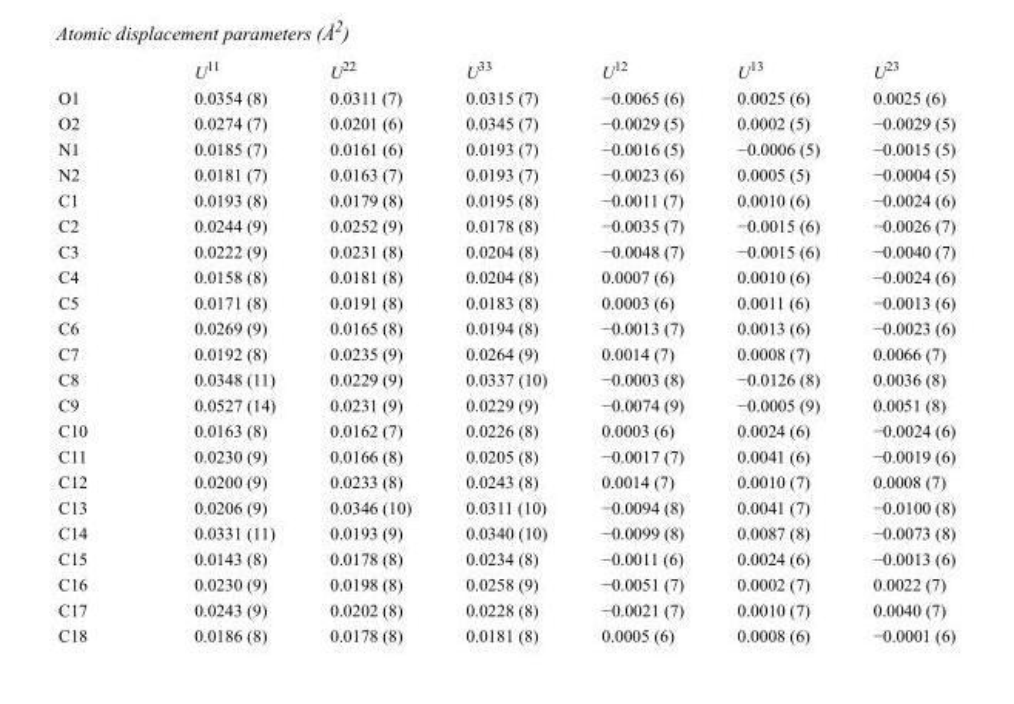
<table><thead><tr><td></td><td>U<sup>11</sup></td><td>U<sup>22</sup></td><td>U<sup>33</sup></td><td>U<sup>12</sup></td><td>U<sup>13</sup></td><td>U<sup>23</sup></td></tr></thead><tbody><tr><td>O1</td><td>0.0354 (8)</td><td>0.0311 (7)</td><td>0.0315 (7)</td><td>−0.0065 (6)</td><td>0.0025 (6)</td><td>0.0025 (6)</td></tr><tr><td>O2</td><td>0.0274 (7)</td><td>0.0201 (6)</td><td>0.0345 (7)</td><td>−0.0029 (5)</td><td>0.0002 (5)</td><td>−0.0029 (5)</td></tr><tr><td>N1</td><td>0.0185 (7)</td><td>0.0161 (6)</td><td>0.0193 (7)</td><td>−0.0016 (5)</td><td>−0.0006 (5)</td><td>−0.0015 (5)</td></tr><tr><td>N2</td><td>0.0181 (7)</td><td>0.0163 (7)</td><td>0.0193 (7)</td><td>−0.0023 (6)</td><td>0.0005 (5)</td><td>−0.0004 (5)</td></tr><tr><td>C1</td><td>0.0193 (8)</td><td>0.0179 (8)</td><td>0.0195 (8)</td><td>−0.0011 (7)</td><td>0.0010 (6)</td><td>−0.0024 (6)</td></tr><tr><td>C2</td><td>0.0244 (9)</td><td>0.0252 (9)</td><td>0.0178 (8)</td><td>−0.0035 (7)</td><td>−0.0015 (6)</td><td>−0.0026 (7)</td></tr><tr><td>C3</td><td>0.0222 (9)</td><td>0.0231 (8)</td><td>0.0204 (8)</td><td>−0.0048 (7)</td><td>−0.0015 (6)</td><td>−0.0040 (7)</td></tr><tr><td>C4</td><td>0.0158 (8)</td><td>0.0181 (8)</td><td>0.0204 (8)</td><td>0.0007 (6)</td><td>0.0010 (6)</td><td>−0.0024 (6)</td></tr><tr><td>C5</td><td>0.0171 (8)</td><td>0.0191 (8)</td><td>0.0183 (8)</td><td>0.0003 (6)</td><td>0.0011 (6)</td><td>−0.0013 (6)</td></tr><tr><td>C6</td><td>0.0269 (9)</td><td>0.0165 (8)</td><td>0.0194 (8)</td><td>−0.0013 (7)</td><td>0.0013 (6)</td><td>−0.0023 (6)</td></tr><tr><td>C7</td><td>0.0192 (8)</td><td>0.0235 (9)</td><td>0.0264 (9)</td><td>0.0014 (7)</td><td>0.0008 (7)</td><td>0.0066 (7)</td></tr><tr><td>C8</td><td>0.0348 (11)</td><td>0.0229 (9)</td><td>0.0337 (10)</td><td>−0.0003 (8)</td><td>−0.0126 (8)</td><td>0.0036 (8)</td></tr><tr><td>C9</td><td>0.0527 (14)</td><td>0.0231 (9)</td><td>0.0229 (9)</td><td>−0.0074 (9)</td><td>−0.0005 (9)</td><td>0.0051 (8)</td></tr><tr><td>C10</td><td>0.0163 (8)</td><td>0.0162 (7)</td><td>0.0226 (8)</td><td>0.0003 (6)</td><td>0.0024 (6)</td><td>−0.0024 (6)</td></tr><tr><td>C11</td><td>0.0230 (9)</td><td>0.0166 (8)</td><td>0.0205 (8)</td><td>−0.0017 (7)</td><td>0.0041 (6)</td><td>−0.0019 (6)</td></tr><tr><td>C12</td><td>0.0200 (9)</td><td>0.0233 (8)</td><td>0.0243 (8)</td><td>0.0014 (7)</td><td>0.0010 (7)</td><td>0.0008 (7)</td></tr><tr><td>C13</td><td>0.0206 (9)</td><td>0.0346 (10)</td><td>0.0311 (10)</td><td>−0.0094 (8)</td><td>0.0041 (7)</td><td>−0.0100 (8)</td></tr><tr><td>C14</td><td>0.0331 (11)</td><td>0.0193 (9)</td><td>0.0340 (10)</td><td>−0.0099 (8)</td><td>0.0087 (8)</td><td>−0.0073 (8)</td></tr><tr><td>C15</td><td>0.0143 (8)</td><td>0.0178 (8)</td><td>0.0234 (8)</td><td>−0.0011 (6)</td><td>0.0024 (6)</td><td>−0.0013 (6)</td></tr><tr><td>C16</td><td>0.0230 (9)</td><td>0.0198 (8)</td><td>0.0258 (9)</td><td>−0.0051 (7)</td><td>0.0002 (7)</td><td>0.0022 (7)</td></tr><tr><td>C17</td><td>0.0243 (9)</td><td>0.0202 (8)</td><td>0.0228 (8)</td><td>−0.0021 (7)</td><td>0.0010 (7)</td><td>0.0040 (7)</td></tr><tr><td>C18</td><td>0.0186 (8)</td><td>0.0178 (8)</td><td>0.0181 (8)</td><td>0.0005 (6)</td><td>0.0008 (6)</td><td>−0.0001 (6)</td></tr></tbody></table>